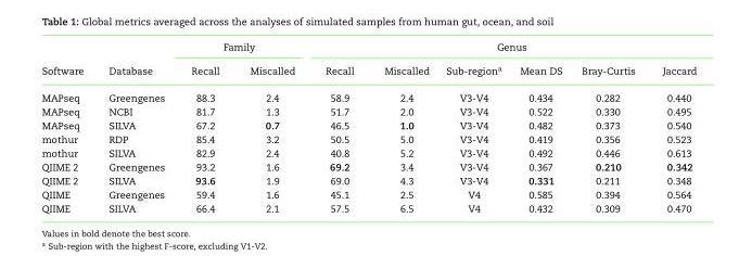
<table><thead><tr><td rowspan="2">Software</td><td rowspan="2">Database</td><td colspan="2">Family</td><td colspan="6">Genus</td></tr><tr><td>Recall</td><td>Miscalled</td><td>Recall</td><td>Miscalled</td><td>Sub-region<sup>a</sup></td><td>Mean DS</td><td>Bray-Curtis</td><td>Jaccard</td></tr></thead><tbody><tr><td>MAPseq</td><td>Greengenes</td><td>88.3</td><td>2.4</td><td>58.9</td><td>2.4</td><td>V3-V4</td><td>0.434</td><td>0.282</td><td>0.440</td></tr><tr><td>MAPseq</td><td>NCBI</td><td>81.7</td><td>1.3</td><td>51.7</td><td>2.0</td><td>V3-V4</td><td>0.522</td><td>0.330</td><td>0.495</td></tr><tr><td>MAPseq</td><td>SILVA</td><td>67.2</td><td>0.7</td><td>46.5</td><td>1.0</td><td>V3-V4</td><td>0.482</td><td>0.373</td><td>0.540</td></tr><tr><td>mothur</td><td>RDP</td><td>85.4</td><td>3.2</td><td>50.5</td><td>5.0</td><td>V3-V4</td><td>0.419</td><td>0.356</td><td>0.523</td></tr><tr><td>mothur</td><td>SILVA</td><td>82.9</td><td>2.4</td><td>40.8</td><td>5.2</td><td>V3-V4</td><td>0.492</td><td>0.446</td><td>0.613</td></tr><tr><td>QIIME 2</td><td>Greengenes</td><td>93.2</td><td>1.6</td><td>69.2</td><td>3.4</td><td>V3-V4</td><td>0.367</td><td>0.210</td><td>0.342</td></tr><tr><td>QIIME 2</td><td>SILVA</td><td>93.6</td><td>1.9</td><td>69.0</td><td>4.3</td><td>V3-V4</td><td>0.331</td><td>0.211</td><td>0.348</td></tr><tr><td>QIIME</td><td>Greengenes</td><td>59.4</td><td>1.6</td><td>45.1</td><td>2.5</td><td>V4</td><td>0.585</td><td>0.394</td><td>0.564</td></tr><tr><td>QIIME</td><td>SILVA</td><td>66.4</td><td>2.1</td><td>57.5</td><td>6.5</td><td>V4</td><td>0.432</td><td>0.309</td><td>0.470</td></tr></tbody></table>